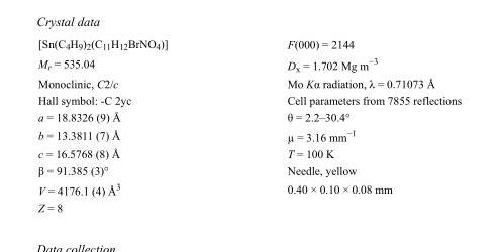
<table><tbody><tr><td>[Sn(C<sub>4</sub>H<sub>9</sub>)<sub>2</sub>(C<sub>11</sub>H<sub>12</sub>BrNO<sub>4</sub>)]</td><td>F(000) = 2144</td></tr><tr><td>M<sub>r</sub> = 535.04</td><td>D<sub>x</sub> = 1.702 Mg m<sup>−3</sup></td></tr><tr><td>Monoclinic, C2/c</td><td>Mo Kα radiation, λ = 0.71073 Å</td></tr><tr><td>Hall symbol: -C 2yc</td><td>Cell parameters from 7855 reflections</td></tr><tr><td>a = 18.8326 (9) Å</td><td>θ = 2.2–30.4°</td></tr><tr><td>b = 13.3811 (7) Å</td><td>µ = 3.16 mm<sup>−1</sup></td></tr><tr><td>c = 16.5768 (8) Å</td><td>T = 100 K</td></tr><tr><td>β = 91.385 (3)°</td><td>Needle, yellow</td></tr><tr><td>V = 4176.1 (4) Å<sup>3</sup></td><td>0.40 × 0.10 × 0.08 mm</td></tr><tr><td>Z = 8</td><td></td></tr></tbody></table>